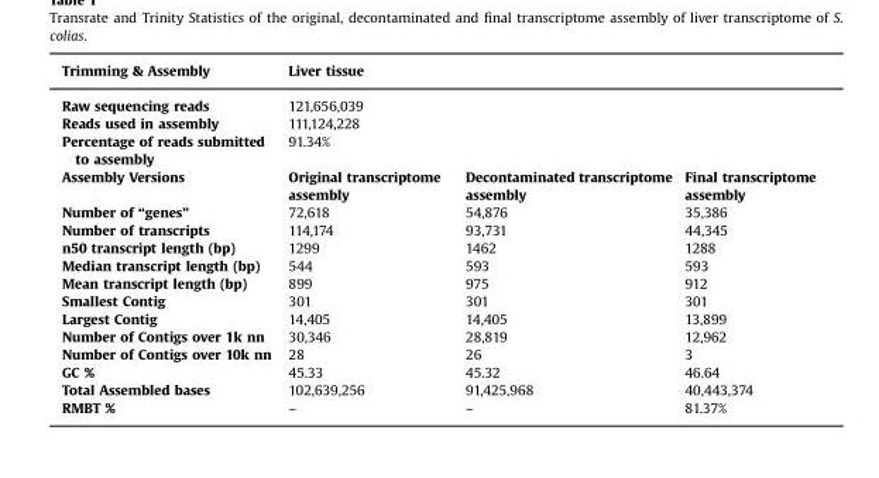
<table><thead><tr><td>Trimming &amp; Assembly</td><td colspan="3">Liver tissue</td></tr></thead><tbody><tr><td>Raw sequencing reads</td><td colspan="3">121,656,039</td></tr><tr><td>Reads used in assembly</td><td colspan="3">111,124,228</td></tr><tr><td>Percentage of reads submitted to assembly</td><td colspan="3">91.34%</td></tr><tr><td>Assembly Versions</td><td>Original transcriptome assembly</td><td>Decontaminated transcriptome assembly</td><td>Final transcriptome assembly</td></tr><tr><td>Number of “genes”</td><td>72,618</td><td>54,876</td><td>35,386</td></tr><tr><td>Number of transcripts</td><td>114,174</td><td>93,731</td><td>44,345</td></tr><tr><td>n50 transcript length (bp)</td><td>1299</td><td>1462</td><td>1288</td></tr><tr><td>Median transcript length (bp)</td><td>544</td><td>593</td><td>593</td></tr><tr><td>Mean transcript length (bp)</td><td>899</td><td>975</td><td>912</td></tr><tr><td>Smallest Contig</td><td>301</td><td>301</td><td>301</td></tr><tr><td>Largest Contig</td><td>14,405</td><td>14,405</td><td>13,899</td></tr><tr><td>Number of Contigs over 1k nn</td><td>30,346</td><td>28,819</td><td>12,962</td></tr><tr><td>Number of Contigs over 10k nn</td><td>28</td><td>26</td><td>3</td></tr><tr><td>GC %</td><td>45.33</td><td>45.32</td><td>46.64</td></tr><tr><td>Total Assembled bases</td><td>102,639,256</td><td>91,425,968</td><td>40,443,374</td></tr><tr><td>RMBT %</td><td>–</td><td>–</td><td>81.37%</td></tr></tbody></table>